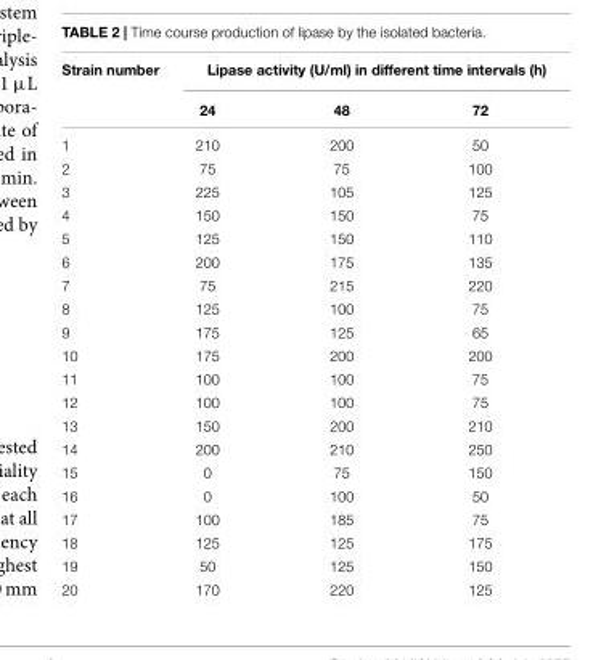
<table><thead><tr><td rowspan="2">Strain number</td><td colspan="3">Lipase activity (U/ml) in different time intervals (h)</td></tr><tr><td>24</td><td>48</td><td>72</td></tr></thead><tbody><tr><td>1</td><td>210</td><td>200</td><td>50</td></tr><tr><td>2</td><td>75</td><td>75</td><td>100</td></tr><tr><td>3</td><td>225</td><td>105</td><td>125</td></tr><tr><td>4</td><td>150</td><td>150</td><td>75</td></tr><tr><td>5</td><td>125</td><td>150</td><td>110</td></tr><tr><td>6</td><td>200</td><td>175</td><td>135</td></tr><tr><td>7</td><td>75</td><td>215</td><td>220</td></tr><tr><td>8</td><td>125</td><td>100</td><td>75</td></tr><tr><td>9</td><td>175</td><td>125</td><td>65</td></tr><tr><td>10</td><td>175</td><td>200</td><td>200</td></tr><tr><td>11</td><td>100</td><td>100</td><td>75</td></tr><tr><td>12</td><td>100</td><td>100</td><td>75</td></tr><tr><td>13</td><td>150</td><td>200</td><td>210</td></tr><tr><td>14</td><td>200</td><td>210</td><td>250</td></tr><tr><td>15</td><td>0</td><td>75</td><td>150</td></tr><tr><td>16</td><td>0</td><td>100</td><td>50</td></tr><tr><td>17</td><td>100</td><td>185</td><td>75</td></tr><tr><td>18</td><td>125</td><td>125</td><td>175</td></tr><tr><td>19</td><td>50</td><td>125</td><td>150</td></tr><tr><td>20</td><td>170</td><td>220</td><td>125</td></tr></tbody></table>